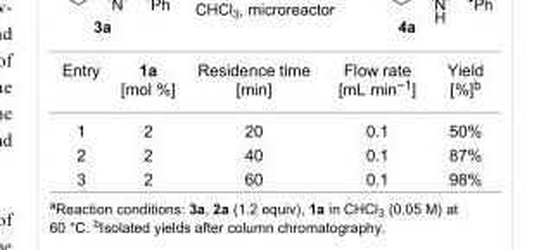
<table><tbody><tr><td>Entry</td><td>1a [mol %]</td><td>Residence time [min]</td><td>Flow rate [mL min<sup>−1</sup>]</td><td>Yield [%]<sup>b</sup></td></tr><tr><td>1</td><td>2</td><td>20</td><td>0.1</td><td>50%</td></tr><tr><td>2</td><td>2</td><td>40</td><td>0.1</td><td>87%</td></tr><tr><td>3</td><td>2</td><td>60</td><td>0.1</td><td>98%</td></tr></tbody></table>